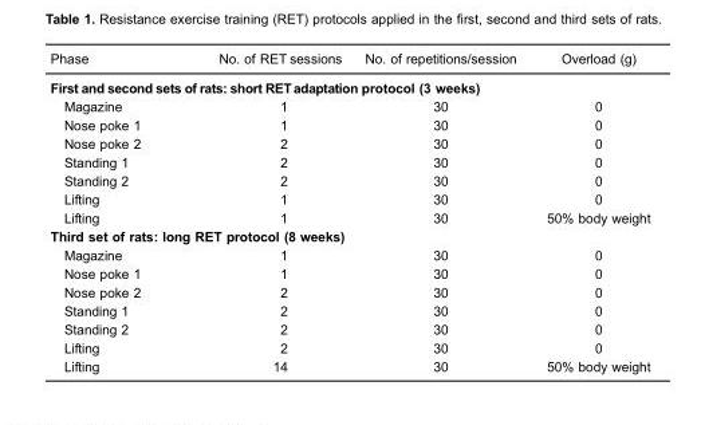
<table><thead><tr><td>Phase</td><td>No. of RET sessions</td><td>No. of repetitions/session</td><td>Overload (g)</td></tr></thead><tbody><tr><td colspan="4">First and second sets of rats: short RETadaptation protocol (3 weeks)</td></tr><tr><td>Magazine</td><td>1</td><td>30</td><td>0</td></tr><tr><td>Nose poke 1</td><td>1</td><td>30</td><td>0</td></tr><tr><td>Nose poke 2</td><td>2</td><td>30</td><td>0</td></tr><tr><td>Standing 1</td><td>2</td><td>30</td><td>0</td></tr><tr><td>Standing 2</td><td>2</td><td>30</td><td>0</td></tr><tr><td>Lifting</td><td>1</td><td>30</td><td>0</td></tr><tr><td>Lifting</td><td>1</td><td>30</td><td>50% body weight</td></tr><tr><td colspan="4">Third set of rats: long RET protocol (8 weeks)</td></tr><tr><td>Magazine</td><td>1</td><td>30</td><td>0</td></tr><tr><td>Nose poke 1</td><td>1</td><td>30</td><td>0</td></tr><tr><td>Nose poke 2</td><td>2</td><td>30</td><td>0</td></tr><tr><td>Standing 1</td><td>2</td><td>30</td><td>0</td></tr><tr><td>Standing 2</td><td>2</td><td>30</td><td>0</td></tr><tr><td>Lifting</td><td>2</td><td>30</td><td>0</td></tr><tr><td>Lifting</td><td>14</td><td>30</td><td>50% body weight</td></tr></tbody></table>